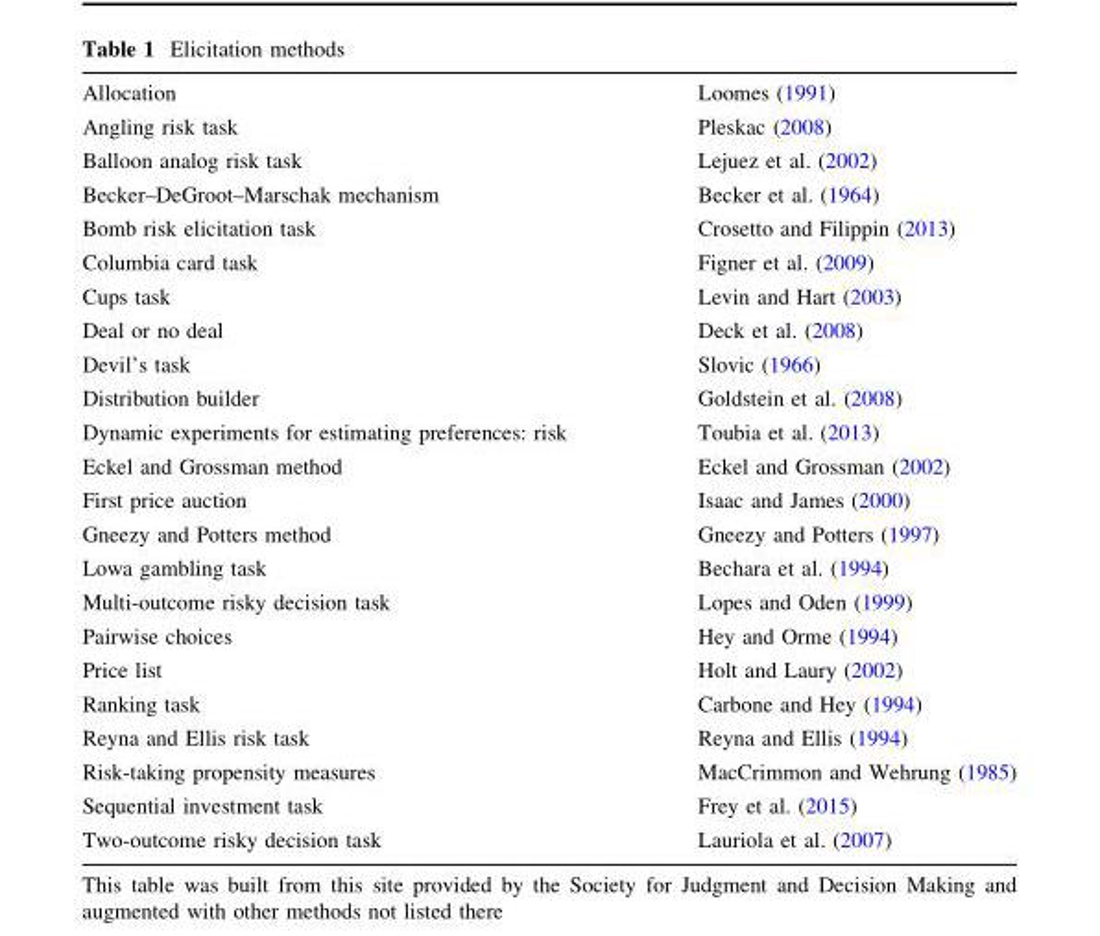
<table><tbody><tr><td>Allocation</td><td>Loomes (1991)</td></tr><tr><td>Angling risk task</td><td>Pleskac (2008)</td></tr><tr><td>Balloon analog risk task</td><td>Lejuez et al. (2002)</td></tr><tr><td>Becker–DeGroot–Marschak mechanism</td><td>Becker et al. (1964)</td></tr><tr><td>Bomb risk elicitation task</td><td>Crosetto and Filippin (2013)</td></tr><tr><td>Columbia card task</td><td>Figner et al. (2009)</td></tr><tr><td>Cups task</td><td>Levin and Hart (2003)</td></tr><tr><td>Deal or no deal</td><td>Deck et al. (2008)</td></tr><tr><td>Devil’s task</td><td>Slovic (1966)</td></tr><tr><td>Distribution builder</td><td>Goldstein et al. (2008)</td></tr><tr><td>Dynamic experiments for estimating preferences: risk</td><td>Toubia et al. (2013)</td></tr><tr><td>Eckel and Grossman method</td><td>Eckel and Grossman (2002)</td></tr><tr><td>First price auction</td><td>Isaac and James (2000)</td></tr><tr><td>Gneezy and Potters method</td><td>Gneezy and Potters (1997)</td></tr><tr><td>Lowa gambling task</td><td>Bechara et al. (1994)</td></tr><tr><td>Multi-outcome risky decision task</td><td>Lopes and Oden (1999)</td></tr><tr><td>Pairwise choices</td><td>Hey and Orme (1994)</td></tr><tr><td>Price list</td><td>Holt and Laury (2002)</td></tr><tr><td>Ranking task</td><td>Carbone and Hey (1994)</td></tr><tr><td>Reyna and Ellis risk task</td><td>Reyna and Ellis (1994)</td></tr><tr><td>Risk-taking propensity measures</td><td>MacCrimmon and Wehrung (1985)</td></tr><tr><td>Sequential investment task</td><td>Frey et al. (2015)</td></tr><tr><td>Two-outcome risky decision task</td><td>Lauriola et al. (2007)</td></tr></tbody></table>